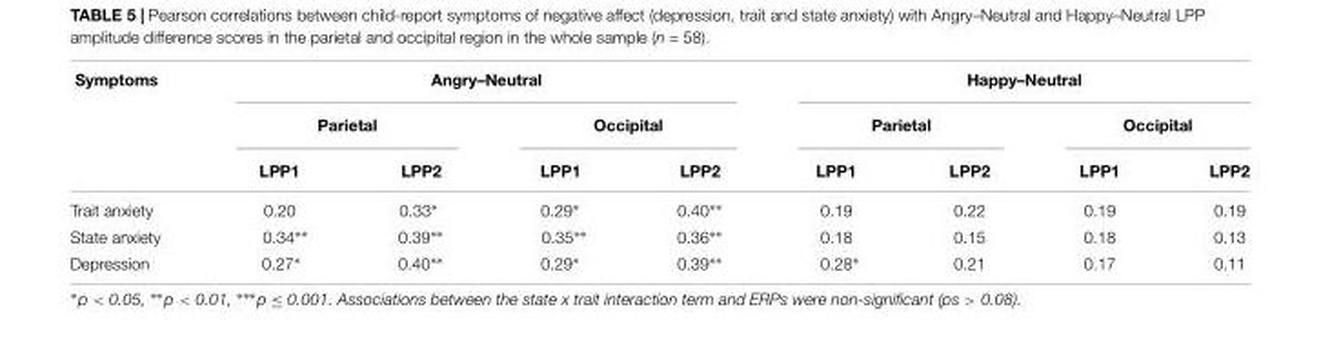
<table><thead><tr><td rowspan="3">Symptoms</td><td colspan="4">Angry–Neutral</td><td colspan="4">Happy–Neutral</td></tr><tr><td colspan="2">Parietal</td><td colspan="2">Occipital</td><td colspan="2">Parietal</td><td colspan="2">Occipital</td></tr><tr><td>LPP1</td><td>LPP2</td><td>LPP1</td><td>LPP2</td><td>LPP1</td><td>LPP2</td><td>LPP1</td><td>LPP2</td></tr></thead><tbody><tr><td>Trait anxiety</td><td>0.20</td><td>0.33∗</td><td>0.29∗</td><td>0.40∗∗</td><td>0.19</td><td>0.22</td><td>0.19</td><td>0.19</td></tr><tr><td>State anxiety</td><td>0.34∗∗</td><td>0.39∗∗</td><td>0.35∗∗</td><td>0.36∗∗</td><td>0.18</td><td>0.15</td><td>0.18</td><td>0.13</td></tr><tr><td>Depression</td><td>0.27∗</td><td>0.40∗∗</td><td>0.29∗</td><td>0.39∗∗</td><td>0.28∗</td><td>0.21</td><td>0.17</td><td>0.11</td></tr></tbody></table>